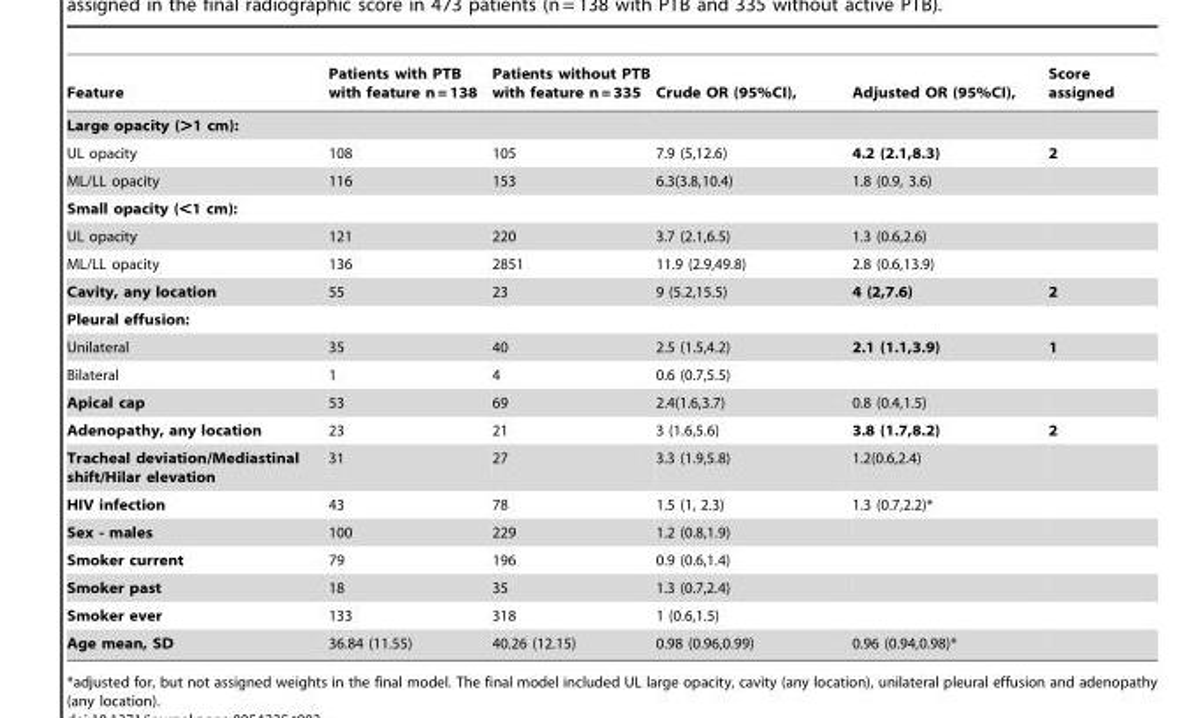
<table><thead><tr><td>Feature</td><td>Patients with PTB with feature n = 138</td><td>Patients without PTB with feature n = 335</td><td>Crude OR (95%CI),</td><td>Adjusted OR (95%CI),</td><td>Score assigned</td></tr></thead><tbody><tr><td colspan="6">Large opacity (&gt;1 cm):</td></tr><tr><td>UL opacity</td><td>108</td><td>105</td><td>7.9 (5,12.6)</td><td>4.2 (2.1,8.3)</td><td>2</td></tr><tr><td>ML/LL opacity</td><td>116</td><td>153</td><td>6.3(3.8,10.4)</td><td>1.8 (0.9, 3.6)</td><td></td></tr><tr><td colspan="6">Small opacity (&lt;1 cm):</td></tr><tr><td>UL opacity</td><td>121</td><td>220</td><td>3.7 (2.1,6.5)</td><td>1.3 (0.6,2.6)</td><td></td></tr><tr><td>ML/LL opacity</td><td>136</td><td>2851</td><td>11.9 (2.9,49.8)</td><td>2.8 (0.6,13.9)</td><td></td></tr><tr><td>Cavity, any location</td><td>55</td><td>23</td><td>9 (5.2,15.5)</td><td>4 (2,7.6)</td><td>2</td></tr><tr><td colspan="6">Pleural effusion:</td></tr><tr><td>Unilateral</td><td>35</td><td>40</td><td>2.5 (1.5,4.2)</td><td>2.1 (1.1,3.9)</td><td>1</td></tr><tr><td>Bilateral</td><td>1</td><td>4</td><td>0.6 (0.7,5.5)</td><td></td><td></td></tr><tr><td>Apical cap</td><td>53</td><td>69</td><td>2.4(1.6,3.7)</td><td>0.8 (0.4,1.5)</td><td></td></tr><tr><td>Adenopathy, any location</td><td>23</td><td>21</td><td>3 (1.6,5.6)</td><td>3.8 (1.7,8.2)</td><td>2</td></tr><tr><td>Tracheal deviation/Mediastinal shift/Hilar elevation</td><td>31</td><td>27</td><td>3.3 (1.9,5.8)</td><td>1.2(0.6,2.4)</td><td></td></tr><tr><td>HIV infection</td><td>43</td><td>78</td><td>1.5 (1, 2.3)</td><td>1.3 (0.7,2.2)*</td><td></td></tr><tr><td>Sex - males</td><td>100</td><td>229</td><td>1.2 (0.8,1.9)</td><td></td><td></td></tr><tr><td>Smoker current</td><td>79</td><td>196</td><td>0.9 (0.6,1.4)</td><td></td><td></td></tr><tr><td>Smoker past</td><td>18</td><td>35</td><td>1.3 (0.7,2.4)</td><td></td><td></td></tr><tr><td>Smoker ever</td><td>133</td><td>318</td><td>1 (0.6,1.5)</td><td></td><td></td></tr><tr><td>Age mean, SD</td><td>36.84 (11.55)</td><td>40.26 (12.15)</td><td>0.98 (0.96,0.99)</td><td>0.96 (0.94,0.98)*</td><td></td></tr></tbody></table>